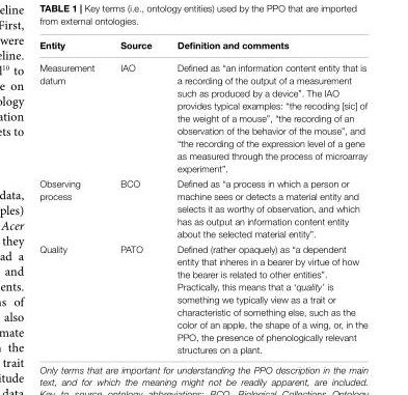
<table><thead><tr><td>Entity</td><td>Source</td><td>Definition and comments</td></tr></thead><tbody><tr><td>Measurement datum</td><td>IAO</td><td>Defined as “an information content entity that is a recording of the output of a measurement such as produced by a device”. The IAO provides typical examples: “the recoding [sic] of the weight of a mouse”, “the recording of an observation of the behavior of the mouse”, and “the recording of the expression level of a gene as measured through the process of microarray experiment”.</td></tr><tr><td>Observing process</td><td>BCO</td><td>Defined as “a process in which a person or machine sees or detects a material entity and selects it as worthy of observation, and which has as output an information content entity about the selected material entity”.</td></tr><tr><td>Quality</td><td>PATO</td><td>Defined (rather opaquely) as “a dependent entity that inheres in a bearer by virtue of how the bearer is related to other entities”. Practically, this means that a ‘quality’ is something we typically view as a trait or characteristic of something else, such as the color of an apple, the shape of a wing, or, in the PPO, the presence of phenologically relevant structures on a plant.</td></tr></tbody></table>